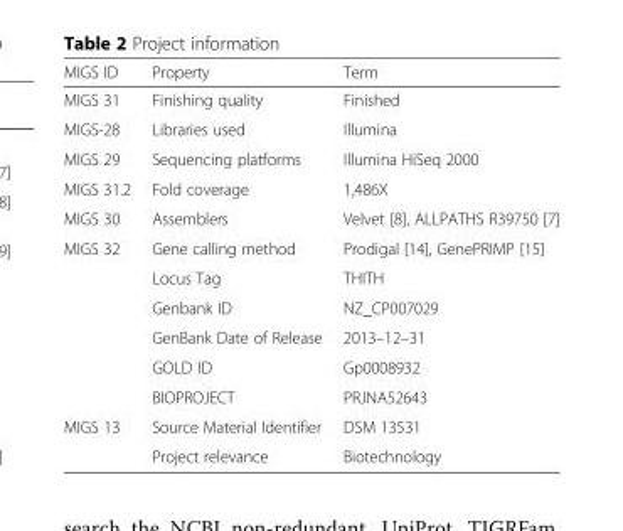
<table><thead><tr><td>MIGS ID</td><td>Property</td><td>Term</td></tr></thead><tbody><tr><td>MIGS 31</td><td>Finishing quality</td><td>Finished</td></tr><tr><td>MIGS-28</td><td>Libraries used</td><td>Illumina</td></tr><tr><td>MIGS 29</td><td>Sequencing platforms</td><td>Illumina HiSeq 2000</td></tr><tr><td>MIGS 31.2</td><td>Fold coverage</td><td>1,486X</td></tr><tr><td>MIGS 30</td><td>Assemblers</td><td>Velvet [8], ALLPATHS R39750 [7]</td></tr><tr><td rowspan="6">MIGS 32</td><td>Gene calling method</td><td>Prodigal [14], GenePRIMP [15]</td></tr><tr><td>Locus Tag</td><td>THITH</td></tr><tr><td>Genbank ID</td><td>NZ_CP007029</td></tr><tr><td>GenBank Date of Release</td><td>2013–12–31</td></tr><tr><td>GOLD ID</td><td>Gp0008932</td></tr><tr><td>BIOPROJECT</td><td>PRJNA52643</td></tr><tr><td rowspan="2">MIGS 13</td><td>Source Material Identifier</td><td>DSM 13531</td></tr><tr><td>Project relevance</td><td>Biotechnology</td></tr></tbody></table>